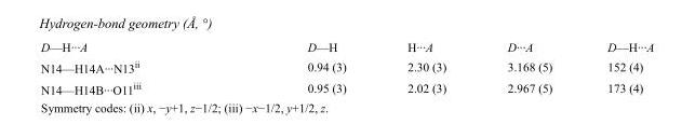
<table><tbody><tr><td>D—H···A</td><td>D—H</td><td>H···A</td><td>D···A</td><td>D—H···A</td></tr><tr><td>N14—H14A···N13<sup>ii</sup></td><td>0.94 (3)</td><td>2.30 (3)</td><td>3.168 (5)</td><td>152 (4)</td></tr><tr><td>N14—H14B···O11<sup>iii</sup></td><td>0.95 (3)</td><td>2.02 (3)</td><td>2.967 (5)</td><td>173 (4)</td></tr></tbody></table>